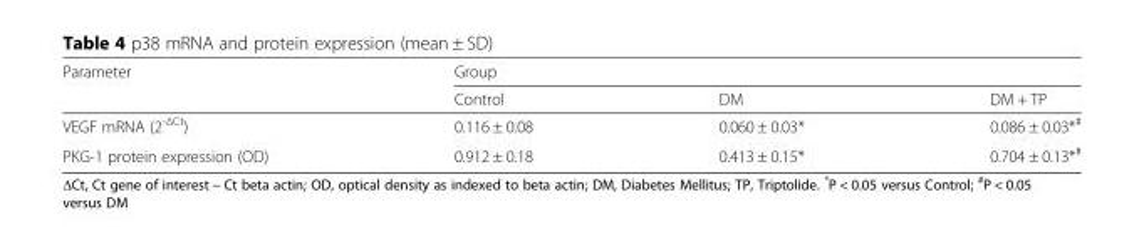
<table><thead><tr><td rowspan="2">Parameter</td><td colspan="3">Group</td></tr><tr><td>Control</td><td>DM</td><td>DM + TP</td></tr></thead><tbody><tr><td>VEGF mRNA (2-ΔCt)</td><td>0.116 ± 0.08</td><td>0.060 ± 0.03*</td><td>0.086 ± 0.03*<sup>#</sup></td></tr><tr><td>PKG-1 protein expression (OD)</td><td>0.912 ± 0.18</td><td>0.413 ± 0.15*</td><td>0.704 ± 0.13*<sup>#</sup></td></tr></tbody></table>